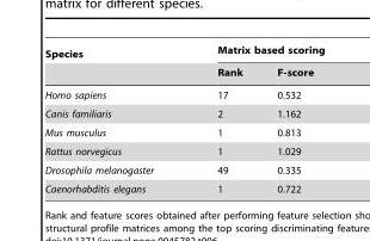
<table><thead><tr><td rowspan="2">Species</td><td colspan="2">Matrix based scoring</td></tr><tr><td>Rank</td><td>F-score</td></tr></thead><tbody><tr><td>Homo sapiens</td><td>17</td><td>0.532</td></tr><tr><td>Canis familiaris</td><td>2</td><td>1.162</td></tr><tr><td>Mus musculus</td><td>1</td><td>0.813</td></tr><tr><td>Rattus norvegicus</td><td>1</td><td>1.029</td></tr><tr><td>Drosophila melanogaster</td><td>49</td><td>0.335</td></tr><tr><td>Caenorhabditis elegans</td><td>1</td><td>0.722</td></tr></tbody></table>